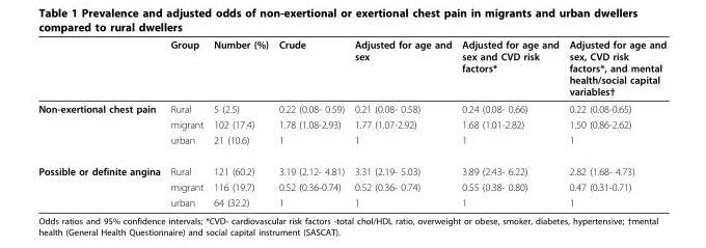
<table><thead><tr><td></td><td>Group</td><td>Number (%)</td><td>Crude</td><td>Adjusted for age and sex</td><td>Adjusted for age and sex and CVD risk factors*</td><td>Adjusted for age and sex, CVD risk factors*, and mental health/social capital variables†</td></tr></thead><tbody><tr><td rowspan="3">Non-exertional chest pain</td><td>Rural</td><td>5 (2.5)</td><td>0.22 (0.08- 0.59)</td><td>0.21 (0.08- 0.58)</td><td>0.24 (0.08- 0.66)</td><td>0.22 (0.08-0.65)</td></tr><tr><td>migrant</td><td>102 (17.4)</td><td>1.78 (1.08-2.93)</td><td>1.77 (1.07-2.92)</td><td>1.68 (1.01-2.82)</td><td>1.50 (0.86-2.62)</td></tr><tr><td>urban</td><td>21 (10.6)</td><td>1</td><td>1</td><td>1</td><td>1</td></tr><tr><td rowspan="3">Possible or definite angina</td><td>Rural</td><td>121 (60.2)</td><td>3.19 (2.12- 4.81)</td><td>3.31 (2.19- 5.03)</td><td>3.89 (2.43- 6.22)</td><td>2.82 (1.68- 4.73)</td></tr><tr><td>migrant</td><td>116 (19.7)</td><td>0.52 (0.36-0.74)</td><td>0.52 (0.36- 0.74)</td><td>0.55 (0.38- 0.80)</td><td>0.47 (0.31-0.71)</td></tr><tr><td>urban</td><td>64 (32.2)</td><td>1</td><td>1</td><td>1</td><td>1</td></tr></tbody></table>